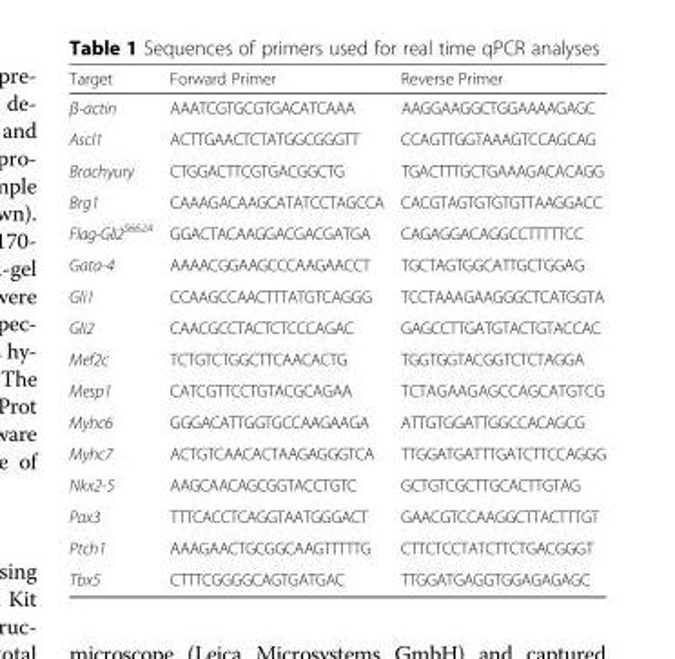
<table><thead><tr><td>Target</td><td>Forward Primer</td><td>Reverse Primer</td></tr></thead><tbody><tr><td>β-actin</td><td>AAATCGTGCGTGACATCAAA</td><td>AAGGAAGGCTGGAAAAGAGC</td></tr><tr><td>Ascl1</td><td>ACTTGAACTCTATGGCGGGTT</td><td>CCAGTTGGTAAAGTCCAGCAG</td></tr><tr><td>Brachyury</td><td>CTGGACTTCGTGACGGCTG</td><td>TGACTTTGCTGAAAGACACAGG</td></tr><tr><td>Brg1</td><td>CAAAGACAAGCATATCCTAGCCA</td><td>CACGTAGTGTGTGTTAAGGACC</td></tr><tr><td>Flag-Gli2<sup>S662A</sup></td><td>GGACTACAAGGACGACGATGA</td><td>CAGAGGACAGGCCTTTTTCC</td></tr><tr><td>Gata-4</td><td>AAAACGGAAGCCCAAGAACCT</td><td>TGCTAGTGGCATTGCTGGAG</td></tr><tr><td>Gli1</td><td>CCAAGCCAACTTTATGTCAGGG</td><td>TCCTAAAGAAGGGCTCATGGTA</td></tr><tr><td>Gli2</td><td>CAACGCCTACTCTCCCAGAC</td><td>GAGCCTTGATGTACTGTACCAC</td></tr><tr><td>Mef2c</td><td>TCTGTCTGGCTTCAACACTG</td><td>TGGTGGTACGGTCTCTAGGA</td></tr><tr><td>Mesp1</td><td>CATCGTTCCTGTACGCAGAA</td><td>TCTAGAAGAGCCAGCATGTCG</td></tr><tr><td>Myhc6</td><td>GGGACATTGGTGCCAAGAAGA</td><td>ATTGTGGATTGGCCACAGCG</td></tr><tr><td>Myhc7</td><td>ACTGTCAACACTAAGAGGGTCA</td><td>TTGGATGATTTGATCTTCCAGGG</td></tr><tr><td>Nkx2-5</td><td>AAGCAACAGCGGTACCTGTC</td><td>GCTGTCGCTTGCACTTGTAG</td></tr><tr><td>Pax3</td><td>TTTCACCTCAGGTAATGGGACT</td><td>GAACGTCCAAGGCTTACTTTGT</td></tr><tr><td>Ptch1</td><td>AAAGAACTGCGGCAAGTTTTTG</td><td>CTTCTCCTATCTTCTGACGGGT</td></tr><tr><td>Tbx5</td><td>CTTTCGGGGCAGTGATGAC</td><td>TTGGATGAGGTGGAGAGAGC</td></tr></tbody></table>